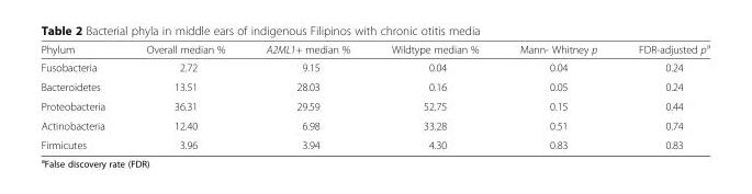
<table><thead><tr><td>Phylum</td><td>Overall median %</td><td>A2ML1+ median %</td><td>Wildtype median %</td><td>Mann- Whitney p</td><td>FDR-adjusted p<sup>a</sup></td></tr></thead><tbody><tr><td>Fusobacteria</td><td>2.72</td><td>9.15</td><td>0.04</td><td>0.04</td><td>0.24</td></tr><tr><td>Bacteroidetes</td><td>13.51</td><td>28.03</td><td>0.16</td><td>0.05</td><td>0.24</td></tr><tr><td>Proteobacteria</td><td>36.31</td><td>29.59</td><td>52.75</td><td>0.15</td><td>0.44</td></tr><tr><td>Actinobacteria</td><td>12.40</td><td>6.98</td><td>33.28</td><td>0.51</td><td>0.74</td></tr><tr><td>Firmicutes</td><td>3.96</td><td>3.94</td><td>4.30</td><td>0.83</td><td>0.83</td></tr></tbody></table>